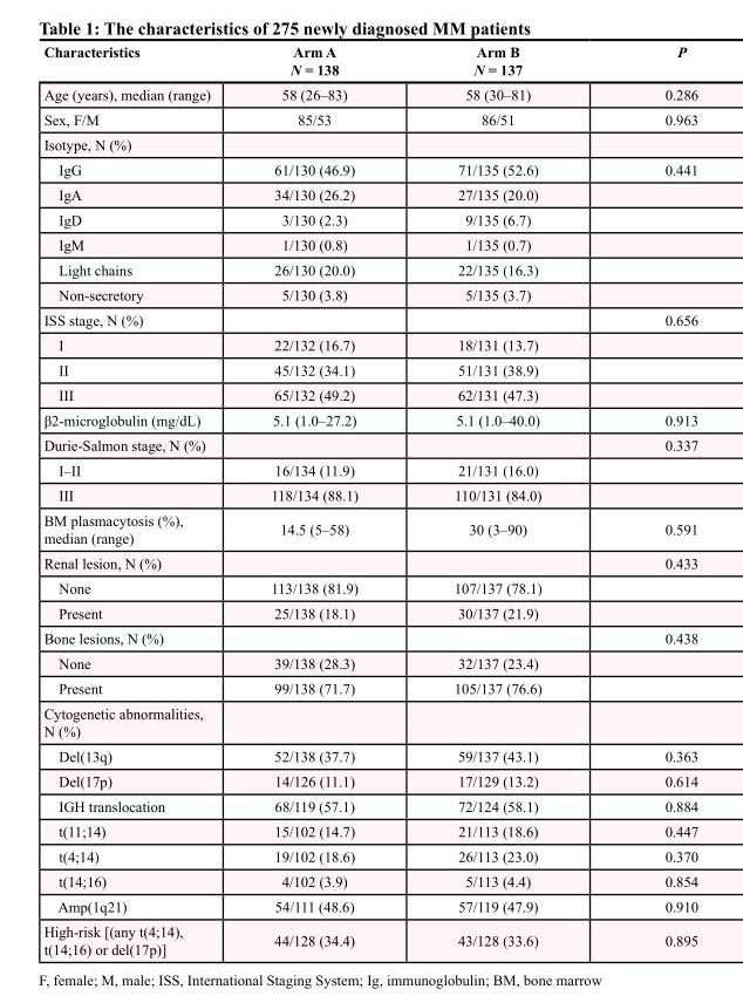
<table><thead><tr><td>Characteristics</td><td>Arm A N = 138</td><td>Arm B N = 137</td><td>P</td></tr></thead><tbody><tr><td>Age (years), median (range)</td><td>58 (26–83)</td><td>58 (30–81)</td><td>0.286</td></tr><tr><td>Sex, F/M</td><td>85/53</td><td>86/51</td><td>0.963</td></tr><tr><td colspan="4">Isotype, N (%)</td></tr><tr><td>IgG</td><td>61/130 (46.9)</td><td>71/135 (52.6)</td><td>0.441</td></tr><tr><td>IgA</td><td>34/130 (26.2)</td><td>27/135 (20.0)</td><td></td></tr><tr><td>IgD</td><td>3/130 (2.3)</td><td>9/135 (6.7)</td><td></td></tr><tr><td>IgM</td><td>1/130 (0.8)</td><td>1/135 (0.7)</td><td></td></tr><tr><td>Light chains</td><td>26/130 (20.0)</td><td>22/135 (16.3)</td><td></td></tr><tr><td>Non-secretory</td><td>5/130 (3.8)</td><td>5/135 (3.7)</td><td></td></tr><tr><td>ISS stage, N (%)</td><td></td><td></td><td>0.656</td></tr><tr><td>I</td><td>22/132 (16.7)</td><td>18/131 (13.7)</td><td></td></tr><tr><td>II</td><td>45/132 (34.1)</td><td>51/131 (38.9)</td><td></td></tr><tr><td>III</td><td>65/132 (49.2)</td><td>62/131 (47.3)</td><td></td></tr><tr><td>β2-microglobulin (mg/dL)</td><td>5.1 (1.0–27.2)</td><td>5.1 (1.0–40.0)</td><td>0.913</td></tr><tr><td>Durie-Salmon stage, N (%)</td><td></td><td></td><td>0.337</td></tr><tr><td>I–II</td><td>16/134 (11.9)</td><td>21/131 (16.0)</td><td></td></tr><tr><td>III</td><td>118/134 (88.1)</td><td>110/131 (84.0)</td><td></td></tr><tr><td>BM plasmacytosis (%), median (range)</td><td>14.5 (5–58)</td><td>30 (3–90)</td><td>0.591</td></tr><tr><td>Renal lesion, N (%)</td><td></td><td></td><td>0.433</td></tr><tr><td>None</td><td>113/138 (81.9)</td><td>107/137 (78.1)</td><td></td></tr><tr><td>Present</td><td>25/138 (18.1)</td><td>30/137 (21.9)</td><td></td></tr><tr><td>Bone lesions, N (%)</td><td></td><td></td><td>0.438</td></tr><tr><td>None</td><td>39/138 (28.3)</td><td>32/137 (23.4)</td><td></td></tr><tr><td>Present</td><td>99/138 (71.7)</td><td>105/137 (76.6)</td><td></td></tr><tr><td colspan="4">Cytogenetic abnormalities, N (%)</td></tr><tr><td>Del(13q)</td><td>52/138 (37.7)</td><td>59/137 (43.1)</td><td>0.363</td></tr><tr><td>Del(17p)</td><td>14/126 (11.1)</td><td>17/129 (13.2)</td><td>0.614</td></tr><tr><td>IGH translocation</td><td>68/119 (57.1)</td><td>72/124 (58.1)</td><td>0.884</td></tr><tr><td>t(11;14)</td><td>15/102 (14.7)</td><td>21/113 (18.6)</td><td>0.447</td></tr><tr><td>t(4;14)</td><td>19/102 (18.6)</td><td>26/113 (23.0)</td><td>0.370</td></tr><tr><td>t(14;16)</td><td>4/102 (3.9)</td><td>5/113 (4.4)</td><td>0.854</td></tr><tr><td>Amp(1q21)</td><td>54/111 (48.6)</td><td>57/119 (47.9)</td><td>0.910</td></tr><tr><td>High-risk [(any t(4;14), t(14;16) or del(17p)]</td><td>44/128 (34.4)</td><td>43/128 (33.6)</td><td>0.895</td></tr></tbody></table>